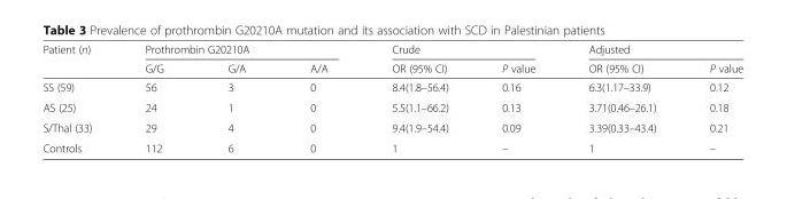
<table><thead><tr><td rowspan="2">Patient (n)</td><td colspan="3">Prothrombin G20210A</td><td colspan="2">Crude</td><td colspan="2">Adjusted</td></tr><tr><td>G/G</td><td>G/A</td><td>A/A</td><td>OR (95% CI)</td><td>P value</td><td>OR (95% CI)</td><td>P value</td></tr></thead><tbody><tr><td>SS (59)</td><td>56</td><td>3</td><td>0</td><td>8.4(1.8–56.4)</td><td>0.16</td><td>6.3(1.17–33.9)</td><td>0.12</td></tr><tr><td>AS (25)</td><td>24</td><td>1</td><td>0</td><td>5.5(1.1–66.2)</td><td>0.13</td><td>3.71(0.46–26.1)</td><td>0.18</td></tr><tr><td>S/Thal (33)</td><td>29</td><td>4</td><td>0</td><td>9.4(1.9–54.4)</td><td>0.09</td><td>3.39(0.33–43.4)</td><td>0.21</td></tr><tr><td>Controls</td><td>112</td><td>6</td><td>0</td><td>1</td><td>–</td><td>1</td><td>–</td></tr></tbody></table>